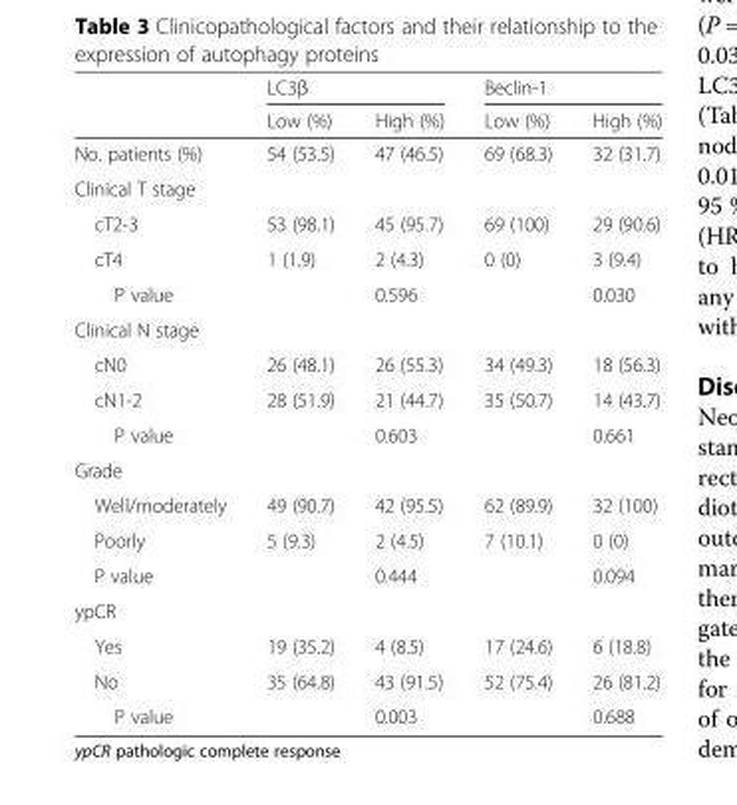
<table><thead><tr><td rowspan="2"></td><td colspan="2">LC3β</td><td colspan="2">Beclin-1</td></tr><tr><td>Low (%)</td><td>High (%)</td><td>Low (%)</td><td>High (%)</td></tr></thead><tbody><tr><td>No. patients (%)</td><td>54 (53.5)</td><td>47 (46.5)</td><td>69 (68.3)</td><td>32 (31.7)</td></tr><tr><td colspan="5">Clinical T stage</td></tr><tr><td>cT2-3</td><td>53 (98.1)</td><td>45 (95.7)</td><td>69 (100)</td><td>29 (90.6)</td></tr><tr><td>cT4</td><td>1 (1.9)</td><td>2 (4.3)</td><td>0 (0)</td><td>3 (9.4)</td></tr><tr><td>P value</td><td></td><td>0.596</td><td></td><td>0.030</td></tr><tr><td colspan="5">Clinical N stage</td></tr><tr><td>cN0</td><td>26 (48.1)</td><td>26 (55.3)</td><td>34 (49.3)</td><td>18 (56.3)</td></tr><tr><td>cN1-2</td><td>28 (51.9)</td><td>21 (44.7)</td><td>35 (50.7)</td><td>14 (43.7)</td></tr><tr><td>P value</td><td></td><td>0.603</td><td></td><td>0.661</td></tr><tr><td colspan="5">Grade</td></tr><tr><td>Well/moderately</td><td>49 (90.7)</td><td>42 (95.5)</td><td>62 (89.9)</td><td>32 (100)</td></tr><tr><td>Poorly</td><td>5 (9.3)</td><td>2 (4.5)</td><td>7 (10.1)</td><td>0 (0)</td></tr><tr><td>P value</td><td></td><td>0.444</td><td></td><td>0.094</td></tr><tr><td colspan="5">ypCR</td></tr><tr><td>Yes</td><td>19 (35.2)</td><td>4 (8.5)</td><td>17 (24.6)</td><td>6 (18.8)</td></tr><tr><td>No</td><td>35 (64.8)</td><td>43 (91.5)</td><td>52 (75.4)</td><td>26 (81.2)</td></tr><tr><td>P value</td><td></td><td>0.003</td><td></td><td>0.688</td></tr></tbody></table>